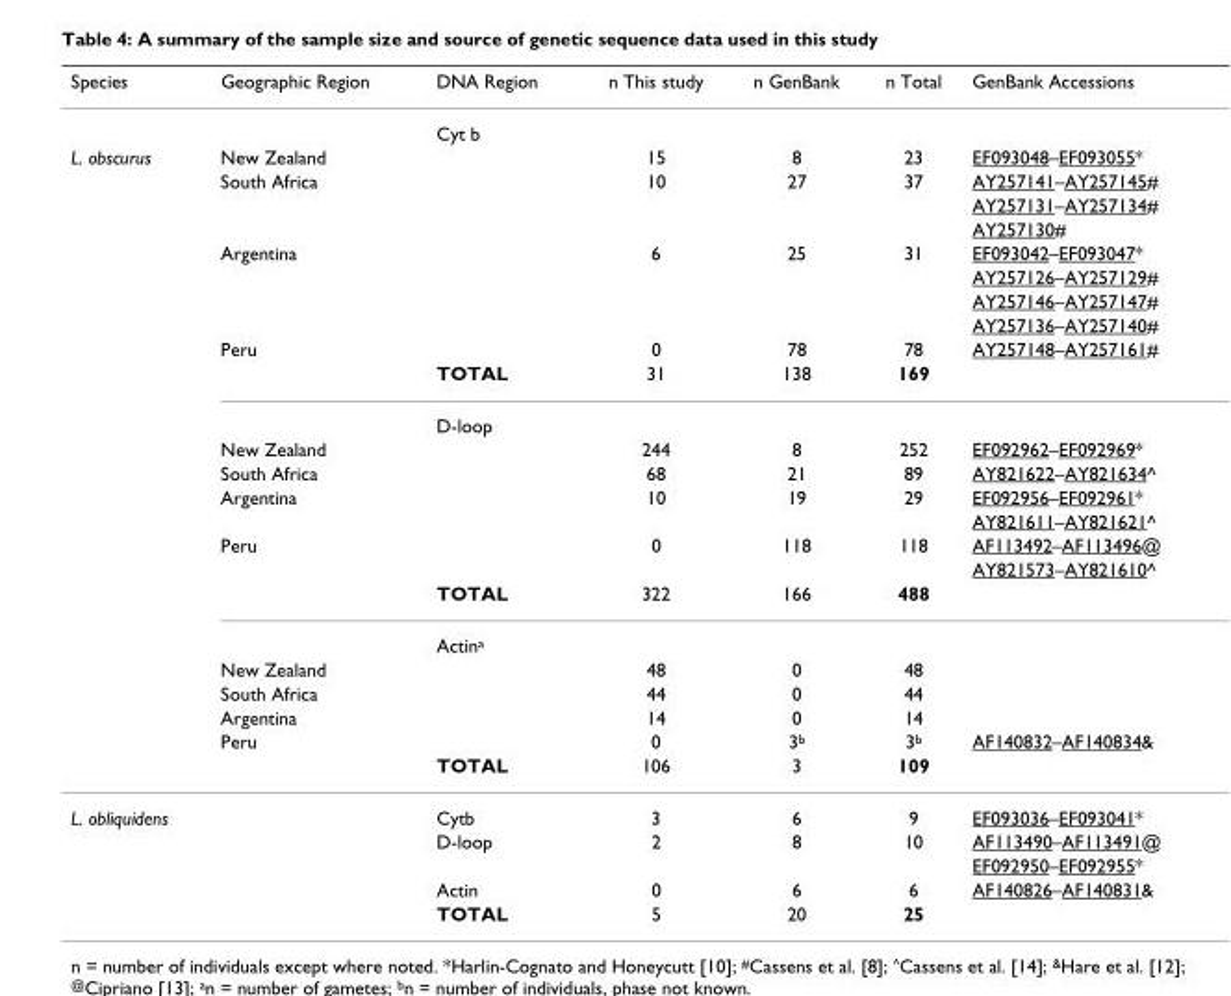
<table><thead><tr><td>Species</td><td>Geographic Region</td><td>DNA Region</td><td>n This study</td><td>n GenBank</td><td>n Total</td><td>GenBank Accessions</td></tr></thead><tbody><tr><td></td><td></td><td>Cyt b</td><td></td><td></td><td></td><td></td></tr><tr><td rowspan="24">L. obscurus</td><td>New Zealand</td><td></td><td>15</td><td>8</td><td>23</td><td>EF093048–EF093055*</td></tr><tr><td>South Africa</td><td></td><td>10</td><td>27</td><td>37</td><td>AY257141–AY257145#</td></tr><tr><td></td><td></td><td></td><td></td><td></td><td>AY257131–AY257134#</td></tr><tr><td></td><td></td><td></td><td></td><td></td><td>AY257130#</td></tr><tr><td>Argentina</td><td></td><td>6</td><td>25</td><td>31</td><td>EF093042–EF093047*</td></tr><tr><td></td><td></td><td></td><td></td><td></td><td>AY257126–AY257129#</td></tr><tr><td></td><td></td><td></td><td></td><td></td><td>AY257146–AY257147#</td></tr><tr><td></td><td></td><td></td><td></td><td></td><td>AY257136–AY257140#</td></tr><tr><td>Peru</td><td></td><td>0</td><td>78</td><td>78</td><td>AY257148–AY257161#</td></tr><tr><td></td><td>TOTAL</td><td>31</td><td>138</td><td>169</td><td></td></tr><tr><td></td><td>D-loop</td><td></td><td></td><td></td><td></td></tr><tr><td>New Zealand</td><td></td><td>244</td><td>8</td><td>252</td><td>EF092962–EF092969*</td></tr><tr><td>South Africa</td><td></td><td>68</td><td>21</td><td>89</td><td>AY821622–AY821634^</td></tr><tr><td>Argentina</td><td></td><td>10</td><td>19</td><td>29</td><td>EF092956–EF092961*</td></tr><tr><td></td><td></td><td></td><td></td><td></td><td>AY821611–AY821621^</td></tr><tr><td>Peru</td><td></td><td>0</td><td>118</td><td>118</td><td>AF113492–AF113496@</td></tr><tr><td></td><td></td><td></td><td></td><td></td><td>AY821573–AY821610^</td></tr><tr><td></td><td>TOTAL</td><td>322</td><td>166</td><td>488</td><td></td></tr><tr><td></td><td>Actin<sup>a</sup></td><td></td><td></td><td></td><td></td></tr><tr><td>New Zealand</td><td></td><td>48</td><td>0</td><td>48</td><td></td></tr><tr><td>South Africa</td><td></td><td>44</td><td>0</td><td>44</td><td></td></tr><tr><td>Argentina</td><td></td><td>14</td><td>0</td><td>14</td><td></td></tr><tr><td>Peru</td><td></td><td>0</td><td>3<sup>b</sup></td><td>3<sup>b</sup></td><td>AF140832–AF140834&amp;</td></tr><tr><td></td><td>TOTAL</td><td>106</td><td>3</td><td>109</td><td></td></tr><tr><td rowspan="5">L. obliquidens</td><td></td><td>Cytb</td><td>3</td><td>6</td><td>9</td><td>EF093036–EF093041*</td></tr><tr><td></td><td>D-loop</td><td>2</td><td>8</td><td>10</td><td>AF113490–AF113491@</td></tr><tr><td></td><td></td><td></td><td></td><td></td><td>EF092950–EF092955*</td></tr><tr><td></td><td>Actin</td><td>0</td><td>6</td><td>6</td><td>AF140826–AF140831&amp;</td></tr><tr><td></td><td>TOTAL</td><td>5</td><td>20</td><td>25</td><td></td></tr></tbody></table>